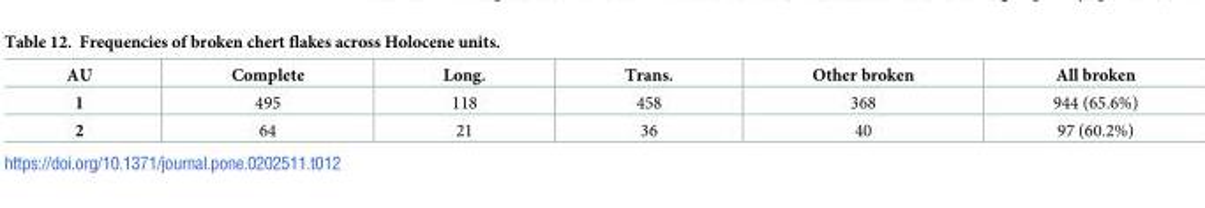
<table><thead><tr><td>AU</td><td>Complete</td><td>Long.</td><td>Trans.</td><td>Other broken</td><td>All broken</td></tr></thead><tbody><tr><td>1</td><td>495</td><td>118</td><td>458</td><td>368</td><td>944 (65.6%)</td></tr><tr><td>2</td><td>64</td><td>21</td><td>36</td><td>40</td><td>97 (60.2%)</td></tr></tbody></table>